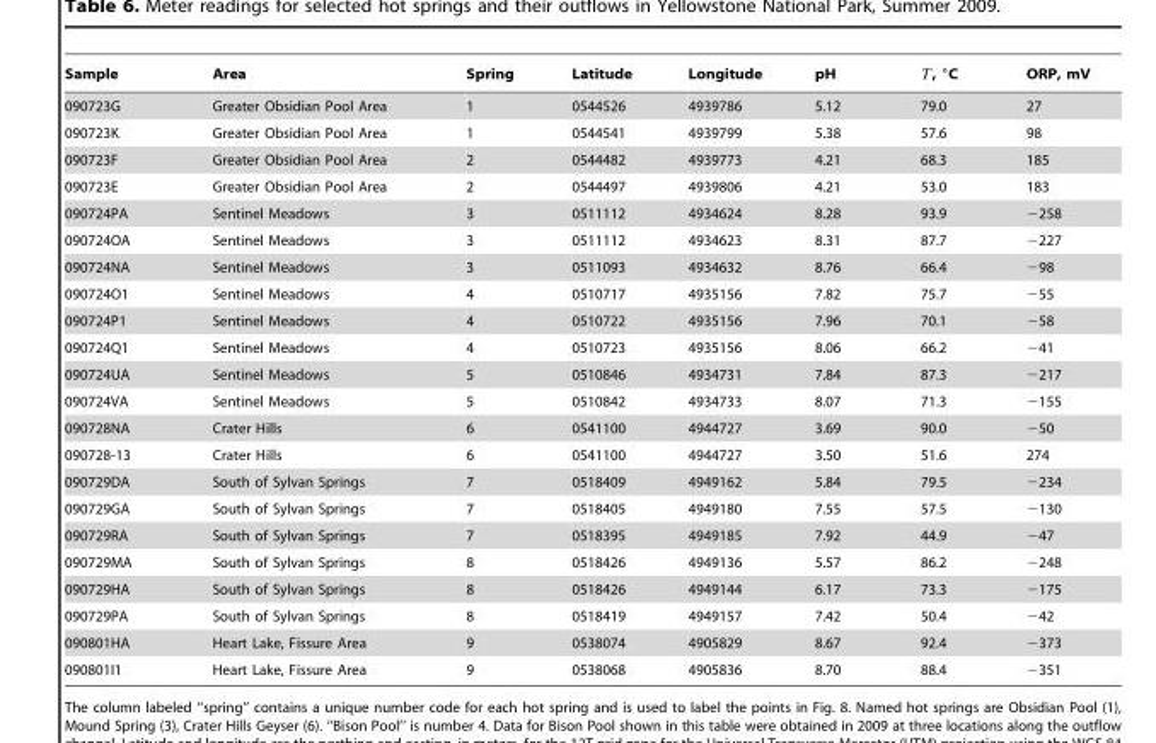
<table><thead><tr><td>Sample</td><td>Area</td><td>Spring</td><td>Latitude</td><td>Longitude</td><td>pH</td><td>T, 6C</td><td>ORP, mV</td></tr></thead><tbody><tr><td>090723G</td><td>Greater Obsidian Pool Area</td><td>1</td><td>0544526</td><td>4939786</td><td>5.12</td><td>79.0</td><td>27</td></tr><tr><td>090723K</td><td>Greater Obsidian Pool Area</td><td>1</td><td>0544541</td><td>4939799</td><td>5.38</td><td>57.6</td><td>98</td></tr><tr><td>090723F</td><td>Greater Obsidian Pool Area</td><td>2</td><td>0544482</td><td>4939773</td><td>4.21</td><td>68.3</td><td>185</td></tr><tr><td>090723E</td><td>Greater Obsidian Pool Area</td><td>2</td><td>0544497</td><td>4939806</td><td>4.21</td><td>53.0</td><td>183</td></tr><tr><td>090724PA</td><td>Sentinel Meadows</td><td>3</td><td>0511112</td><td>4934624</td><td>8.28</td><td>93.9</td><td>−258</td></tr><tr><td>090724OA</td><td>Sentinel Meadows</td><td>3</td><td>0511112</td><td>4934623</td><td>8.31</td><td>87.7</td><td>−227</td></tr><tr><td>090724NA</td><td>Sentinel Meadows</td><td>3</td><td>0511093</td><td>4934632</td><td>8.76</td><td>66.4</td><td>−98</td></tr><tr><td>090724O1</td><td>Sentinel Meadows</td><td>4</td><td>0510717</td><td>4935156</td><td>7.82</td><td>75.7</td><td>−55</td></tr><tr><td>090724P1</td><td>Sentinel Meadows</td><td>4</td><td>0510722</td><td>4935156</td><td>7.96</td><td>70.1</td><td>−58</td></tr><tr><td>090724Q1</td><td>Sentinel Meadows</td><td>4</td><td>0510723</td><td>4935156</td><td>8.06</td><td>66.2</td><td>−41</td></tr><tr><td>090724UA</td><td>Sentinel Meadows</td><td>5</td><td>0510846</td><td>4934731</td><td>7.84</td><td>87.3</td><td>−217</td></tr><tr><td>090724VA</td><td>Sentinel Meadows</td><td>5</td><td>0510842</td><td>4934733</td><td>8.07</td><td>71.3</td><td>−155</td></tr><tr><td>090728NA</td><td>Crater Hills</td><td>6</td><td>0541100</td><td>4944727</td><td>3.69</td><td>90.0</td><td>−50</td></tr><tr><td>090728-13</td><td>Crater Hills</td><td>6</td><td>0541100</td><td>4944727</td><td>3.50</td><td>51.6</td><td>274</td></tr><tr><td>090729DA</td><td>South of Sylvan Springs</td><td>7</td><td>0518409</td><td>4949162</td><td>5.84</td><td>79.5</td><td>−234</td></tr><tr><td>090729GA</td><td>South of Sylvan Springs</td><td>7</td><td>0518405</td><td>4949180</td><td>7.55</td><td>57.5</td><td>−130</td></tr><tr><td>090729RA</td><td>South of Sylvan Springs</td><td>7</td><td>0518395</td><td>4949185</td><td>7.92</td><td>44.9</td><td>−47</td></tr><tr><td>090729MA</td><td>South of Sylvan Springs</td><td>8</td><td>0518426</td><td>4949136</td><td>5.57</td><td>86.2</td><td>−248</td></tr><tr><td>090729HA</td><td>South of Sylvan Springs</td><td>8</td><td>0518426</td><td>4949144</td><td>6.17</td><td>73.3</td><td>−175</td></tr><tr><td>090729PA</td><td>South of Sylvan Springs</td><td>8</td><td>0518419</td><td>4949157</td><td>7.42</td><td>50.4</td><td>−42</td></tr><tr><td>090801HA</td><td>Heart Lake, Fissure Area</td><td>9</td><td>0538074</td><td>4905829</td><td>8.67</td><td>92.4</td><td>−373</td></tr><tr><td>090801I1</td><td>Heart Lake, Fissure Area</td><td>9</td><td>0538068</td><td>4905836</td><td>8.70</td><td>88.4</td><td>−351</td></tr></tbody></table>